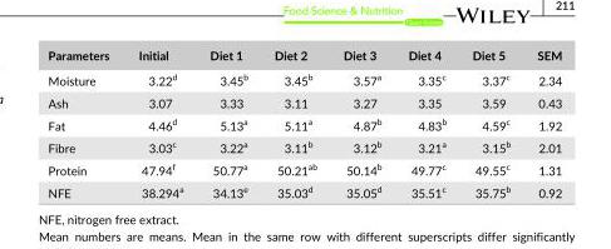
<table><thead><tr><td>Parameters</td><td>Initial</td><td>Diet 1</td><td>Diet 2</td><td>Diet 3</td><td>Diet 4</td><td>Diet 5</td><td>SEM</td></tr></thead><tbody><tr><td>Moisture</td><td>3.22<sup>d</sup></td><td>3.45<sup>b</sup></td><td>3.45<sup>b</sup></td><td>3.57<sup>a</sup></td><td>3.35<sup>c</sup></td><td>3.37<sup>c</sup></td><td>2.34</td></tr><tr><td>Ash</td><td>3.07</td><td>3.33</td><td>3.11</td><td>3.27</td><td>3.35</td><td>3.59</td><td>0.43</td></tr><tr><td>Fat</td><td>4.46<sup>d</sup></td><td>5.13<sup>a</sup></td><td>5.11<sup>a</sup></td><td>4.87<sup>b</sup></td><td>4.83<sup>b</sup></td><td>4.59<sup>c</sup></td><td>1.92</td></tr><tr><td>Fibre</td><td>3.03<sup>c</sup></td><td>3.22<sup>a</sup></td><td>3.11<sup>b</sup></td><td>3.12<sup>b</sup></td><td>3.21<sup>a</sup></td><td>3.15<sup>b</sup></td><td>2.01</td></tr><tr><td>Protein</td><td>47.94<sup>f</sup></td><td>50.77<sup>a</sup></td><td>50.21<sup>ab</sup></td><td>50.14<sup>b</sup></td><td>49.77<sup>c</sup></td><td>49.55<sup>c</sup></td><td>1.31</td></tr><tr><td>NFE</td><td>38.294<sup>a</sup></td><td>34.13<sup>e</sup></td><td>35.03<sup>d</sup></td><td>35.05<sup>d</sup></td><td>35.51<sup>c</sup></td><td>35.75<sup>b</sup></td><td>0.92</td></tr></tbody></table>